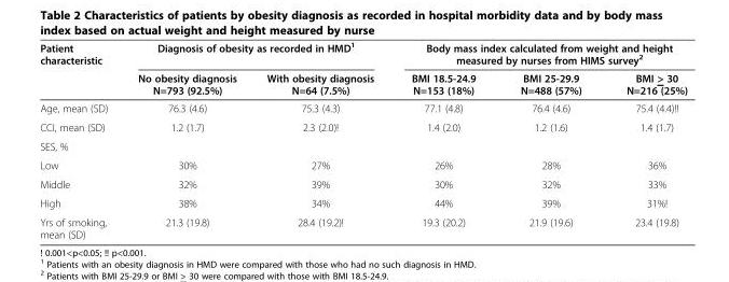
<table><thead><tr><td rowspan="2">Patient characteristic</td><td colspan="2">Diagnosis of obesity as recorded in HMD<sup>1</sup></td><td colspan="3">Body mass index calculated from weight and height measured by nurses from HIMS survey<sup>2</sup></td></tr><tr><td>No obesity diagnosis N=793 (92.5%)</td><td>With obesity diagnosis N=64 (7.5%)</td><td>BMI 18.5-24.9 N=153 (18%)</td><td>BMI 25-29.9 N=488 (57%)</td><td>BMI &gt; 30 N=216 (25%)</td></tr></thead><tbody><tr><td>Age, mean (SD)</td><td>76.3 (4.6)</td><td>75.3 (4.3)</td><td>77.1 (4.8)</td><td>76.4 (4.6)</td><td>75.4 (4.4)!!</td></tr><tr><td>CCI, mean (SD)</td><td>1.2 (1.7)</td><td>2.3 (2.0)!</td><td>1.4 (2.0)</td><td>1.2 (1.6)</td><td>1.4 (1.7)</td></tr><tr><td colspan="6">SES, %</td></tr><tr><td>Low</td><td>30%</td><td>27%</td><td>26%</td><td>28%</td><td>36%</td></tr><tr><td>Middle</td><td>32%</td><td>39%</td><td>30%</td><td>32%</td><td>33%</td></tr><tr><td>High</td><td>38%</td><td>34%</td><td>44%</td><td>39%</td><td>31%!</td></tr><tr><td>Yrs of smoking, mean (SD)</td><td>21.3 (19.8)</td><td>28.4 (19.2)!</td><td>19.3 (20.2)</td><td>21.9 (19.6)</td><td>23.4 (19.8)</td></tr></tbody></table>